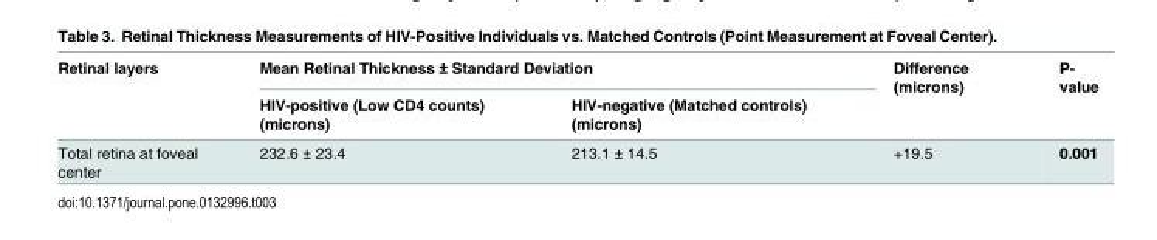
<table><thead><tr><td rowspan="2">Retinal layers</td><td colspan="2">Mean Retinal Thickness ± Standard Deviation</td><td rowspan="2">Difference (microns)</td><td rowspan="2">P- value</td></tr><tr><td>HIV-positive (Low CD4 counts) (microns)</td><td>HIV-negative (Matched controls) (microns)</td></tr></thead><tbody><tr><td>Total retina at foveal center</td><td>232.6 ± 23.4</td><td>213.1 ± 14.5</td><td>+19.5</td><td>0.001</td></tr></tbody></table>